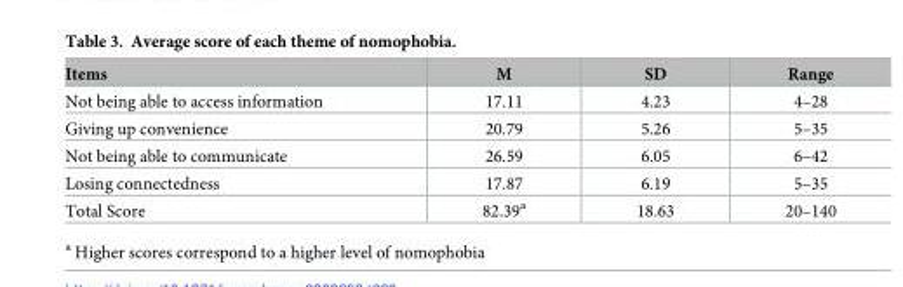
<table><thead><tr><td>Items</td><td>M</td><td>SD</td><td>Range</td></tr></thead><tbody><tr><td>Not being able to access information</td><td>17.11</td><td>4.23</td><td>4–28</td></tr><tr><td>Giving up convenience</td><td>20.79</td><td>5.26</td><td>5–35</td></tr><tr><td>Not being able to communicate</td><td>26.59</td><td>6.05</td><td>6–42</td></tr><tr><td>Losing connectedness</td><td>17.87</td><td>6.19</td><td>5–35</td></tr><tr><td>Total Score</td><td>82.39<sup>a</sup></td><td>18.63</td><td>20–140</td></tr></tbody></table>